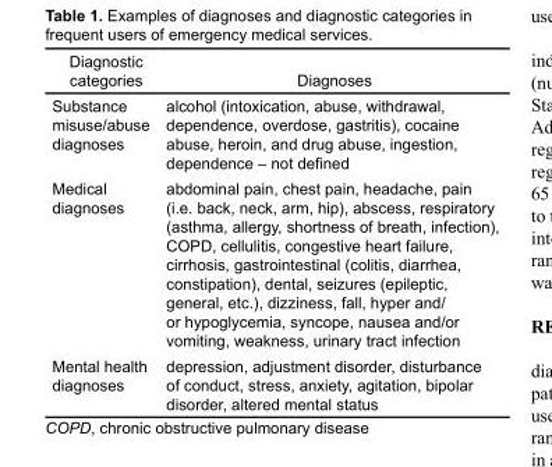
<table><thead><tr><td>Diagnostic categories</td><td>Diagnoses</td></tr></thead><tbody><tr><td>Substance misuse/abuse diagnoses</td><td>alcohol (intoxication, abuse, withdrawal, dependence, overdose, gastritis), cocaine abuse, heroin, and drug abuse, ingestion, dependence – not defined</td></tr><tr><td>Medical diagnoses</td><td>abdominal pain, chest pain, headache, pain (i.e. back, neck, arm, hip), abscess, respiratory (asthma, allergy, shortness of breath, infection), COPD, cellulitis, congestive heart failure, cirrhosis, gastrointestinal (colitis, diarrhea, constipation), dental, seizures (epileptic, general, etc.), dizziness, fall, hyper and/ or hypoglycemia, syncope, nausea and/or vomiting, weakness, urinary tract infection</td></tr><tr><td>Mental health diagnoses</td><td>depression, adjustment disorder, disturbance of conduct, stress, anxiety, agitation, bipolar disorder, altered mental status</td></tr></tbody></table>